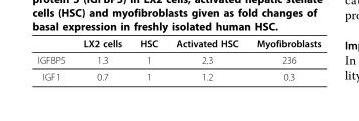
<table><thead><tr><td></td><td>LX2 cells</td><td>HSC</td><td>Activated HSC</td><td>Myofibroblasts</td></tr></thead><tbody><tr><td>IGFBP5</td><td>1.3</td><td>1</td><td>2.3</td><td>236</td></tr><tr><td>IGF1</td><td>0.7</td><td>1</td><td>1.2</td><td>0.3</td></tr></tbody></table>